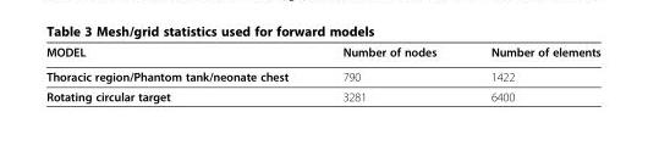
<table><thead><tr><td>MODEL</td><td>Number of nodes</td><td>Number of elements</td></tr></thead><tbody><tr><td>Thoracic region/Phantom tank/neonate chest</td><td>790</td><td>1422</td></tr><tr><td>Rotating circular target</td><td>3281</td><td>6400</td></tr></tbody></table>